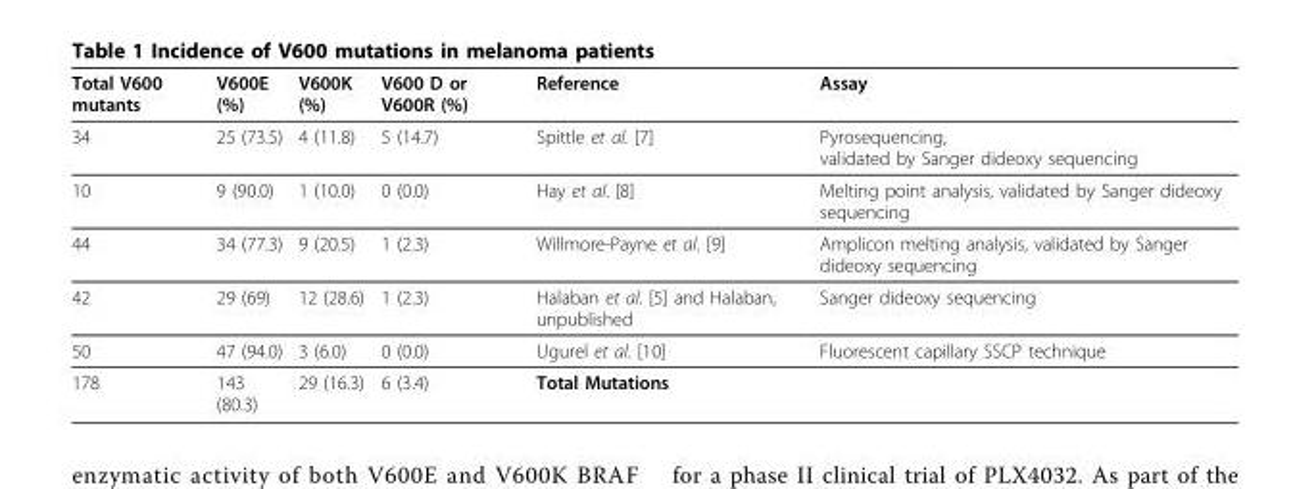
<table><thead><tr><td>Total V600 mutants</td><td>V600E (%)</td><td>V600K (%)</td><td>V600 D or V600R (%)</td><td>Reference</td><td>Assay</td></tr></thead><tbody><tr><td>34</td><td>25 (73.5)</td><td>4 (11.8)</td><td>5 (14.7)</td><td>Spittle et al. [7]</td><td>Pyrosequencing, validated by Sanger dideoxy sequencing</td></tr><tr><td>10</td><td>9 (90.0)</td><td>1 (10.0)</td><td>0 (0.0)</td><td>Hay et al. [8]</td><td>Melting point analysis, validated by Sanger dideoxy sequencing</td></tr><tr><td>44</td><td>34 (77.3)</td><td>9 (20.5)</td><td>1 (2.3)</td><td>Willmore-Payne et al. [9]</td><td>Amplicon melting analysis, validated by Sanger dideoxy sequencing</td></tr><tr><td>42</td><td>29 (69)</td><td>12 (28.6)</td><td>1 (2.3)</td><td>Halaban et al. [5] and Halaban, unpublished</td><td>Sanger dideoxy sequencing</td></tr><tr><td>50</td><td>47 (94.0)</td><td>3 (6.0)</td><td>0 (0.0)</td><td>Ugurel et al. [10]</td><td>Fluorescent capillary SSCP technique</td></tr><tr><td>178</td><td>143 (80.3)</td><td>29 (16.3)</td><td>6 (3.4)</td><td>Total Mutations</td><td></td></tr></tbody></table>